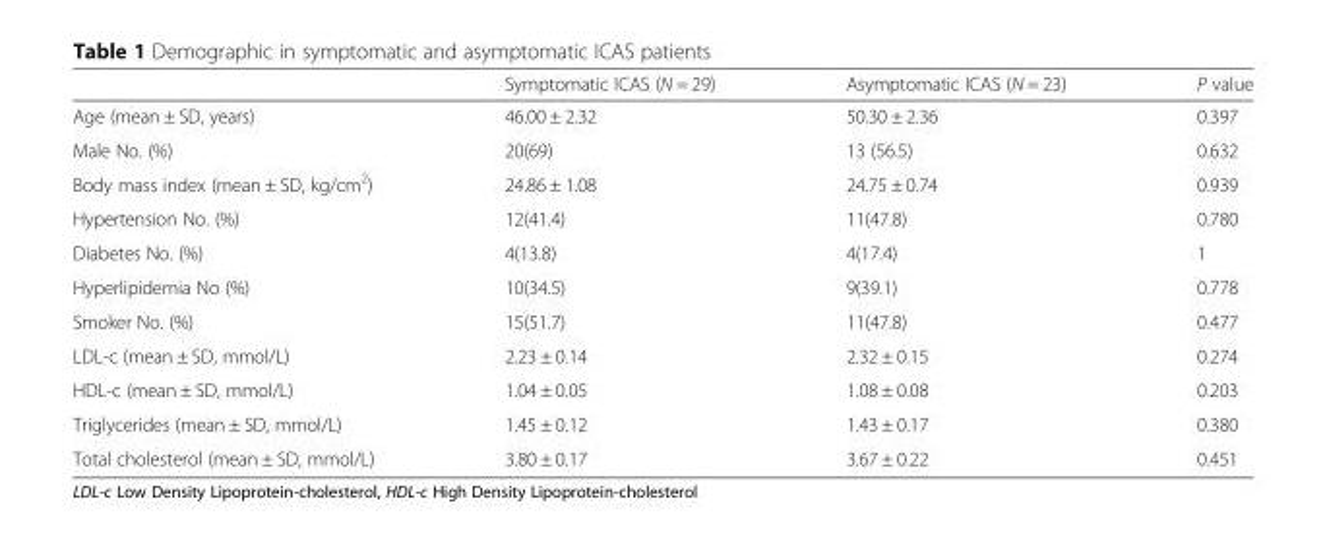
<table><thead><tr><td></td><td>Symptomatic ICAS (N = 29)</td><td>Asymptomatic ICAS (N = 23)</td><td>P value</td></tr></thead><tbody><tr><td>Age (mean ± SD, years)</td><td>46.00 ± 2.32</td><td>50.30 ± 2.36</td><td>0.397</td></tr><tr><td>Male No. (%)</td><td>20(69)</td><td>13 (56.5)</td><td>0.632</td></tr><tr><td>Body mass index (mean ± SD, kg/cm<sup>2</sup>)</td><td>24.86 ± 1.08</td><td>24.75 ± 0.74</td><td>0.939</td></tr><tr><td>Hypertension No. (%)</td><td>12(41.4)</td><td>11(47.8)</td><td>0.780</td></tr><tr><td>Diabetes No. (%)</td><td>4(13.8)</td><td>4(17.4)</td><td>1</td></tr><tr><td>Hyperlipidemia No (%)</td><td>10(34.5)</td><td>9(39.1)</td><td>0.778</td></tr><tr><td>Smoker No. (%)</td><td>15(51.7)</td><td>11(47.8)</td><td>0.477</td></tr><tr><td>LDL-c (mean ± SD, mmol/L)</td><td>2.23 ± 0.14</td><td>2.32 ± 0.15</td><td>0.274</td></tr><tr><td>HDL-c (mean ± SD, mmol/L)</td><td>1.04 ± 0.05</td><td>1.08 ± 0.08</td><td>0.203</td></tr><tr><td>Triglycerides (mean ± SD, mmol/L)</td><td>1.45 ± 0.12</td><td>1.43 ± 0.17</td><td>0.380</td></tr><tr><td>Total cholesterol (mean ± SD, mmol/L)</td><td>3.80 ± 0.17</td><td>3.67 ± 0.22</td><td>0.451</td></tr></tbody></table>